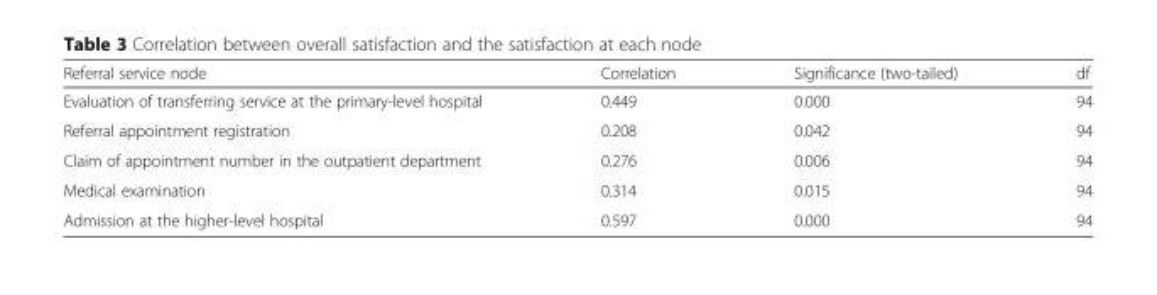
<table><thead><tr><td>Referral service node</td><td>Correlation</td><td>Significance (two-tailed)</td><td>df</td></tr></thead><tbody><tr><td>Evaluation of transferring service at the primary-level hospital</td><td>0.449</td><td>0.000</td><td>94</td></tr><tr><td>Referral appointment registration</td><td>0.208</td><td>0.042</td><td>94</td></tr><tr><td>Claim of appointment number in the outpatient department</td><td>0.276</td><td>0.006</td><td>94</td></tr><tr><td>Medical examination</td><td>0.314</td><td>0.015</td><td>94</td></tr><tr><td>Admission at the higher-level hospital</td><td>0.597</td><td>0.000</td><td>94</td></tr></tbody></table>